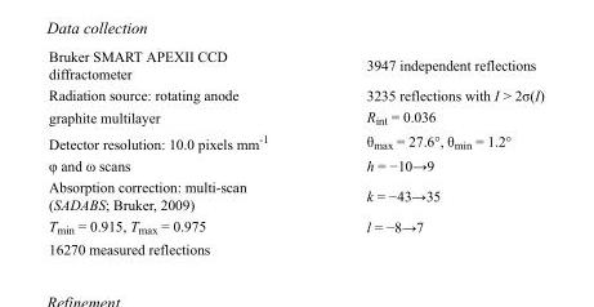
<table><tbody><tr><td>Bruker SMART APEXII CCD diffractometer</td><td>3947 independent reflections</td></tr><tr><td>Radiation source: rotating anode</td><td>3235 reflections with I &gt; 2σ(I)</td></tr><tr><td>graphite multilayer</td><td>R<sub>int</sub> = 0.036</td></tr><tr><td>Detector resolution: 10.0 pixels mm<sup>-1</sup></td><td>θ<sub>max</sub> = 27.6°, θ<sub>min</sub> = 1.2°</td></tr><tr><td>φ and ω scans</td><td>h = −10→9</td></tr><tr><td>Absorption correction: multi-scan (SADABS; Bruker, 2009)</td><td>k = −43→35</td></tr><tr><td>T<sub>min</sub> = 0.915, T<sub>max</sub> = 0.975</td><td>l = −8→7</td></tr><tr><td>16270 measured reflections</td><td></td></tr></tbody></table>